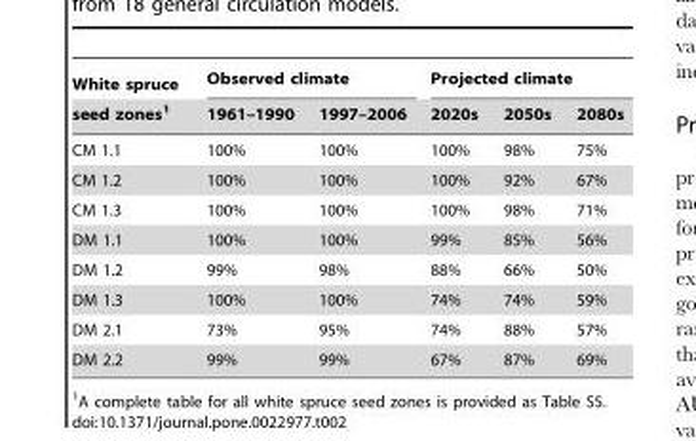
<table><thead><tr><td rowspan="2">White spruce seed zones<sup>1</sup></td><td colspan="2">Observed climate</td><td colspan="3">Projected climate</td></tr><tr><td>1961–1990</td><td>1997–2006</td><td>2020s</td><td>2050s</td><td>2080s</td></tr></thead><tbody><tr><td>CM 1.1</td><td>100%</td><td>100%</td><td>100%</td><td>98%</td><td>75%</td></tr><tr><td>CM 1.2</td><td>100%</td><td>100%</td><td>100%</td><td>92%</td><td>67%</td></tr><tr><td>CM 1.3</td><td>100%</td><td>100%</td><td>100%</td><td>98%</td><td>71%</td></tr><tr><td>DM 1.1</td><td>100%</td><td>100%</td><td>99%</td><td>85%</td><td>56%</td></tr><tr><td>DM 1.2</td><td>99%</td><td>98%</td><td>88%</td><td>66%</td><td>50%</td></tr><tr><td>DM 1.3</td><td>100%</td><td>100%</td><td>74%</td><td>74%</td><td>59%</td></tr><tr><td>DM 2.1</td><td>73%</td><td>95%</td><td>74%</td><td>88%</td><td>57%</td></tr><tr><td>DM 2.2</td><td>99%</td><td>99%</td><td>67%</td><td>87%</td><td>69%</td></tr></tbody></table>